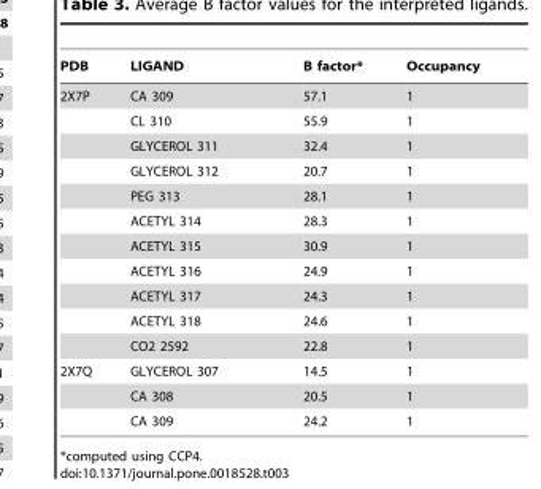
<table><thead><tr><td>PDB</td><td>LIGAND</td><td>B factor*</td><td>Occupancy</td></tr></thead><tbody><tr><td rowspan="11">2X7P</td><td>CA 309</td><td>57.1</td><td>1</td></tr><tr><td>CL 310</td><td>55.9</td><td>1</td></tr><tr><td>GLYCEROL 311</td><td>32.4</td><td>1</td></tr><tr><td>GLYCEROL 312</td><td>20.7</td><td>1</td></tr><tr><td>PEG 313</td><td>28.1</td><td>1</td></tr><tr><td>ACETYL 314</td><td>28.3</td><td>1</td></tr><tr><td>ACETYL 315</td><td>30.9</td><td>1</td></tr><tr><td>ACETYL 316</td><td>24.9</td><td>1</td></tr><tr><td>ACETYL 317</td><td>24.3</td><td>1</td></tr><tr><td>ACETYL 318</td><td>24.6</td><td>1</td></tr><tr><td>CO2 2592</td><td>22.8</td><td>1</td></tr><tr><td rowspan="3">2X7Q</td><td>GLYCEROL 307</td><td>14.5</td><td>1</td></tr><tr><td>CA 308</td><td>20.5</td><td>1</td></tr><tr><td>CA 309</td><td>24.2</td><td>1</td></tr></tbody></table>